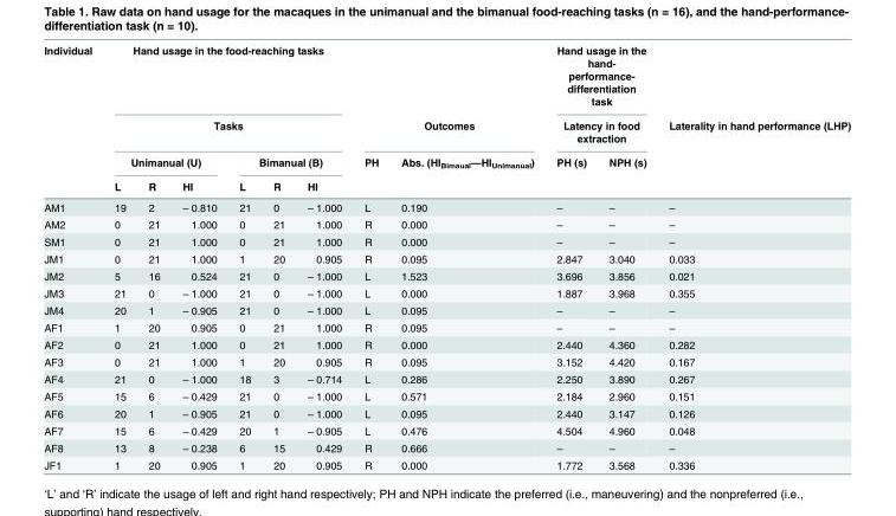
<table><thead><tr><td rowspan="4">Individual</td><td rowspan="2" colspan="6">Hand usage in the food-reaching tasks Tasks</td><td></td><td></td><td rowspan="2" colspan="2">Hand usage in the hand- performance- differentiation task Latency in food extraction</td><td rowspan="4">Laterality in hand performance (LHP)</td></tr><tr><td colspan="2">Outcomes</td></tr><tr><td colspan="3">Unimanual (U)</td><td colspan="3">Bimanual (B)</td><td rowspan="2">PH</td><td rowspan="2">Abs. (HI<sub>Bimaual</sub>—HI<sub>Unimanual</sub>)</td><td rowspan="2">PH (s)</td><td rowspan="2">NPH (s)</td></tr><tr><td>L</td><td>R</td><td>HI</td><td>L</td><td>R</td><td>HI</td></tr></thead><tbody><tr><td>AM1</td><td>19</td><td>2</td><td>– 0.810</td><td>21</td><td>0</td><td>– 1.000</td><td>L</td><td>0.190</td><td>–</td><td>–</td><td>–</td></tr><tr><td>AM2</td><td>0</td><td>21</td><td>1.000</td><td>0</td><td>21</td><td>1.000</td><td>R</td><td>0.000</td><td>–</td><td>–</td><td>–</td></tr><tr><td>SM1</td><td>0</td><td>21</td><td>1.000</td><td>0</td><td>21</td><td>1.000</td><td>R</td><td>0.000</td><td>–</td><td>–</td><td>–</td></tr><tr><td>JM1</td><td>0</td><td>21</td><td>1.000</td><td>1</td><td>20</td><td>0.905</td><td>R</td><td>0.095</td><td>2.847</td><td>3.040</td><td>0.033</td></tr><tr><td>JM2</td><td>5</td><td>16</td><td>0.524</td><td>21</td><td>0</td><td>– 1.000</td><td>L</td><td>1.523</td><td>3.696</td><td>3.856</td><td>0.021</td></tr><tr><td>JM3</td><td>21</td><td>0</td><td>– 1.000</td><td>21</td><td>0</td><td>– 1.000</td><td>L</td><td>0.000</td><td>1.887</td><td>3.968</td><td>0.355</td></tr><tr><td>JM4</td><td>20</td><td>1</td><td>– 0.905</td><td>21</td><td>0</td><td>– 1.000</td><td>L</td><td>0.095</td><td>–</td><td>–</td><td>–</td></tr><tr><td>AF1</td><td>1</td><td>20</td><td>0.905</td><td>0</td><td>21</td><td>1.000</td><td>R</td><td>0.095</td><td>–</td><td>–</td><td>–</td></tr><tr><td>AF2</td><td>0</td><td>21</td><td>1.000</td><td>0</td><td>21</td><td>1.000</td><td>R</td><td>0.000</td><td>2.440</td><td>4.360</td><td>0.282</td></tr><tr><td>AF3</td><td>0</td><td>21</td><td>1.000</td><td>1</td><td>20</td><td>0.905</td><td>R</td><td>0.095</td><td>3.152</td><td>4.420</td><td>0.167</td></tr><tr><td>AF4</td><td>21</td><td>0</td><td>– 1.000</td><td>18</td><td>3</td><td>– 0.714</td><td>L</td><td>0.286</td><td>2.250</td><td>3.890</td><td>0.267</td></tr><tr><td>AF5</td><td>15</td><td>6</td><td>– 0.429</td><td>21</td><td>0</td><td>– 1.000</td><td>L</td><td>0.571</td><td>2.184</td><td>2.960</td><td>0.151</td></tr><tr><td>AF6</td><td>20</td><td>1</td><td>– 0.905</td><td>21</td><td>0</td><td>– 1.000</td><td>L</td><td>0.095</td><td>2.440</td><td>3.147</td><td>0.126</td></tr><tr><td>AF7</td><td>15</td><td>6</td><td>– 0.429</td><td>20</td><td>1</td><td>– 0.905</td><td>L</td><td>0.476</td><td>4.504</td><td>4.960</td><td>0.048</td></tr><tr><td>AF8</td><td>13</td><td>8</td><td>– 0.238</td><td>6</td><td>15</td><td>0.429</td><td>R</td><td>0.666</td><td>–</td><td>–</td><td>–</td></tr><tr><td>JF1</td><td>1</td><td>20</td><td>0.905</td><td>1</td><td>20</td><td>0.905</td><td>R</td><td>0.000</td><td>1.772</td><td>3.568</td><td>0.336</td></tr></tbody></table>